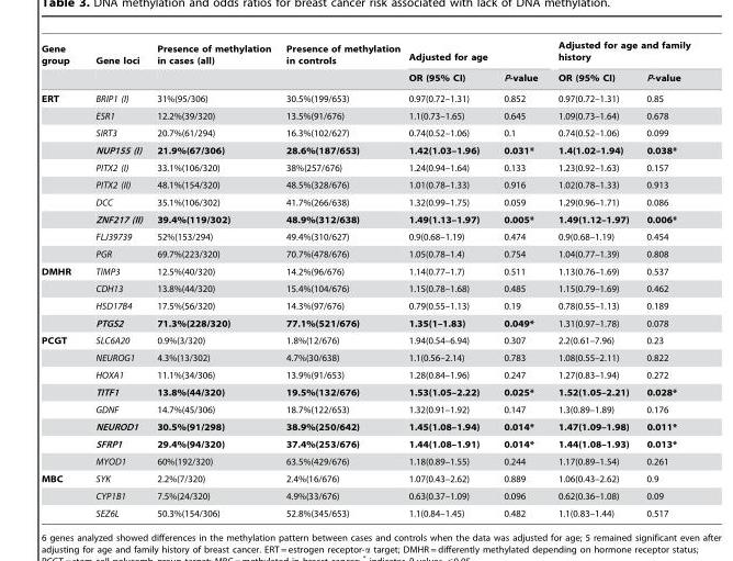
<table><thead><tr><td rowspan="2">Gene group</td><td rowspan="2">Gene loci</td><td rowspan="2">Presence of methylation in cases (all)</td><td rowspan="2">Presence of methylation in controls</td><td colspan="2">Adjusted for age</td><td colspan="2">Adjusted for age and family history</td></tr><tr><td>OR (95% CI)</td><td>P-value</td><td>OR (95% CI)</td><td>P-value</td></tr></thead><tbody><tr><td rowspan="10">ERT</td><td>BRIP1 (I)</td><td>31%(95/306)</td><td>30.5%(199/653)</td><td>0.97(0.72–1.31)</td><td>0.852</td><td>0.97(0.72–1.31)</td><td>0.85</td></tr><tr><td>ESR1</td><td>12.2%(39/320)</td><td>13.5%(91/676)</td><td>1.1(0.73–1.65)</td><td>0.645</td><td>1.09(0.73–1.64)</td><td>0.678</td></tr><tr><td>SIRT3</td><td>20.7%(61/294)</td><td>16.3%(102/627)</td><td>0.74(0.52–1.06)</td><td>0.1</td><td>0.74(0.52–1.06)</td><td>0.099</td></tr><tr><td>NUP155 (I)</td><td>21.9%(67/306)</td><td>28.6%(187/653)</td><td>1.42(1.03–1.96)</td><td>0.031*</td><td>1.4(1.02–1.94)</td><td>0.038*</td></tr><tr><td>PITX2 (I)</td><td>33.1%(106/320)</td><td>38%(257/676)</td><td>1.24(0.94–1.64)</td><td>0.133</td><td>1.23(0.92–1.63)</td><td>0.157</td></tr><tr><td>PITX2 (II)</td><td>48.1%(154/320)</td><td>48.5%(328/676)</td><td>1.01(0.78–1.33)</td><td>0.916</td><td>1.02(0.78–1.33)</td><td>0.913</td></tr><tr><td>DCC</td><td>35.1%(106/302)</td><td>41.7%(266/638)</td><td>1.32(0.99–1.75)</td><td>0.059</td><td>1.29(0.96–1.71)</td><td>0.086</td></tr><tr><td>ZNF217 (II)</td><td>39.4%(119/302)</td><td>48.9%(312/638)</td><td>1.49(1.13–1.97)</td><td>0.005*</td><td>1.49(1.12–1.97)</td><td>0.006*</td></tr><tr><td>FLJ39739</td><td>52%(153/294)</td><td>49.4%(310/627)</td><td>0.9(0.68–1.19)</td><td>0.474</td><td>0.9(0.68–1.19)</td><td>0.454</td></tr><tr><td>PGR</td><td>69.7%(223/320)</td><td>70.7%(478/676)</td><td>1.05(0.78–1.4)</td><td>0.754</td><td>1.04(0.77–1.39)</td><td>0.808</td></tr><tr><td rowspan="4">DMHR</td><td>TIMP3</td><td>12.5%(40/320)</td><td>14.2%(96/676)</td><td>1.14(0.77–1.7)</td><td>0.511</td><td>1.13(0.76–1.69)</td><td>0.537</td></tr><tr><td>CDH13</td><td>13.8%(44/320)</td><td>15.4%(104/676)</td><td>1.15(0.78–1.68)</td><td>0.485</td><td>1.15(0.79–1.69)</td><td>0.462</td></tr><tr><td>HSD17B4</td><td>17.5%(56/320)</td><td>14.3%(97/676)</td><td>0.79(0.55–1.13)</td><td>0.19</td><td>0.78(0.55–1.13)</td><td>0.189</td></tr><tr><td>PTGS2</td><td>71.3%(228/320)</td><td>77.1%(521/676)</td><td>1.35(1–1.83)</td><td>0.049*</td><td>1.31(0.97–1.78)</td><td>0.078</td></tr><tr><td rowspan="8">PCGT</td><td>SLC6A20</td><td>0.9%(3/320)</td><td>1.8%(12/676)</td><td>1.94(0.54–6.94)</td><td>0.307</td><td>2.2(0.61–7.96)</td><td>0.23</td></tr><tr><td>NEUROG1</td><td>4.3%(13/302)</td><td>4.7%(30/638)</td><td>1.1(0.56–2.14)</td><td>0.783</td><td>1.08(0.55–2.11)</td><td>0.822</td></tr><tr><td>HOXA1</td><td>11.1%(34/306)</td><td>13.9%(91/653)</td><td>1.28(0.84–1.96)</td><td>0.247</td><td>1.27(0.83–1.94)</td><td>0.272</td></tr><tr><td>TITF1</td><td>13.8%(44/320)</td><td>19.5%(132/676)</td><td>1.53(1.05–2.22)</td><td>0.025*</td><td>1.52(1.05–2.21)</td><td>0.028*</td></tr><tr><td>GDNF</td><td>14.7%(45/306)</td><td>18.7%(122/653)</td><td>1.32(0.91–1.92)</td><td>0.147</td><td>1.3(0.89–1.89)</td><td>0.176</td></tr><tr><td>NEUROD1</td><td>30.5%(91/298)</td><td>38.9%(250/642)</td><td>1.45(1.08–1.94)</td><td>0.014*</td><td>1.47(1.09–1.98)</td><td>0.011*</td></tr><tr><td>SFRP1</td><td>29.4%(94/320)</td><td>37.4%(253/676)</td><td>1.44(1.08–1.91)</td><td>0.014*</td><td>1.44(1.08–1.93)</td><td>0.013*</td></tr><tr><td>MYOD1</td><td>60%(192/320)</td><td>63.5%(429/676)</td><td>1.18(0.89–1.55)</td><td>0.244</td><td>1.17(0.89–1.54)</td><td>0.261</td></tr><tr><td rowspan="3">MBC</td><td>SYK</td><td>2.2%(7/320)</td><td>2.4%(16/676)</td><td>1.07(0.43–2.62)</td><td>0.889</td><td>1.06(0.43–2.62)</td><td>0.9</td></tr><tr><td>CYP1B1</td><td>7.5%(24/320)</td><td>4.9%(33/676)</td><td>0.63(0.37–1.09)</td><td>0.096</td><td>0.62(0.36–1.08)</td><td>0.09</td></tr><tr><td>SEZ6L</td><td>50.3%(154/306)</td><td>52.8%(345/653)</td><td>1.1(0.84–1.45)</td><td>0.482</td><td>1.1(0.83–1.44)</td><td>0.517</td></tr></tbody></table>